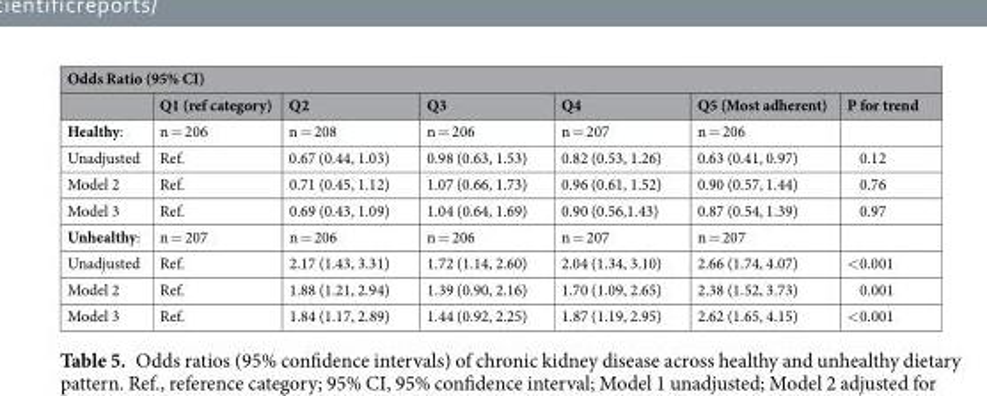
<table><thead><tr><td colspan="7">Odds Ratio (95% CI)</td></tr><tr><td></td><td>Q1 (ref category)</td><td>Q2</td><td>Q3</td><td>Q4</td><td>Q5 (Most adherent)</td><td>P for trend</td></tr></thead><tbody><tr><td>Healthy:</td><td>n = 206</td><td>n = 208</td><td>n = 206</td><td>n = 207</td><td>n = 206</td><td></td></tr><tr><td>Unadjusted</td><td>Ref.</td><td>0.67 (0.44, 1.03)</td><td>0.98 (0.63, 1.53)</td><td>0.82 (0.53, 1.26)</td><td>0.63 (0.41, 0.97)</td><td>0.12</td></tr><tr><td>Model 2</td><td>Ref.</td><td>0.71 (0.45, 1.12)</td><td>1.07 (0.66, 1.73)</td><td>0.96 (0.61, 1.52)</td><td>0.90 (0.57, 1.44)</td><td>0.76</td></tr><tr><td>Model 3</td><td>Ref.</td><td>0.69 (0.43, 1.09)</td><td>1.04 (0.64, 1.69)</td><td>0.90 (0.56,1.43)</td><td>0.87 (0.54, 1.39)</td><td>0.97</td></tr><tr><td>Unhealthy:</td><td>n = 207</td><td>n = 206</td><td>n = 206</td><td>n = 207</td><td>n = 207</td><td></td></tr><tr><td>Unadjusted</td><td>Ref.</td><td>2.17 (1.43, 3.31)</td><td>1.72 (1.14, 2.60)</td><td>2.04 (1.34, 3.10)</td><td>2.66 (1.74, 4.07)</td><td>&lt;0.001</td></tr><tr><td>Model 2</td><td>Ref.</td><td>1.88 (1.21, 2.94)</td><td>1.39 (0.90, 2.16)</td><td>1.70 (1.09, 2.65)</td><td>2.38 (1.52, 3.73)</td><td>0.001</td></tr><tr><td>Model 3</td><td>Ref.</td><td>1.84 (1.17, 2.89)</td><td>1.44 (0.92, 2.25)</td><td>1.87 (1.19, 2.95)</td><td>2.62 (1.65, 4.15)</td><td>&lt;0.001</td></tr></tbody></table>